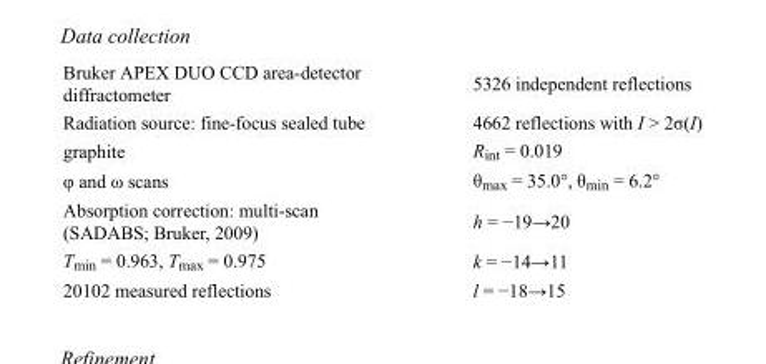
<table><tbody><tr><td>Bruker APEX DUO CCD area-detector diffractometer</td><td>5326 independent reflections</td></tr><tr><td>Radiation source: fine-focus sealed tube</td><td>4662 reflections with I &gt; 2σ(I)</td></tr><tr><td>graphite</td><td>R<sub>int</sub> = 0.019</td></tr><tr><td>φ and ω scans</td><td>θ<sub>max</sub> = 35.0°, θ<sub>min</sub> = 6.2°</td></tr><tr><td>Absorption correction: multi-scan (SADABS; Bruker, 2009)</td><td>h = −19→20</td></tr><tr><td>T<sub>min</sub> = 0.963, T<sub>max</sub> = 0.975</td><td>k = −14→11</td></tr><tr><td>20102 measured reflections</td><td>l = −18→15</td></tr></tbody></table>